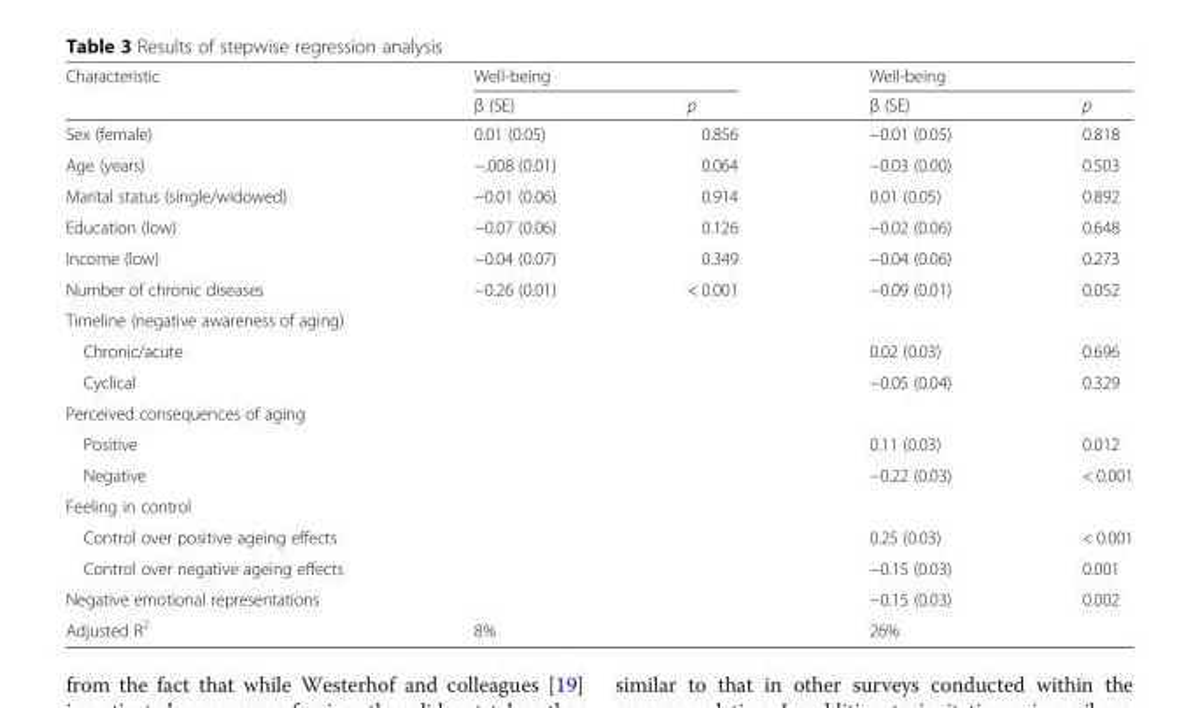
<table><thead><tr><td rowspan="2">Characteristic</td><td colspan="2">Well-being</td><td colspan="2">Well-being</td></tr><tr><td>β (SE)</td><td>p</td><td>β (SE)</td><td>p</td></tr></thead><tbody><tr><td>Sex (female)</td><td>0.01 (0.05)</td><td>0.856</td><td>−0.01 (0.05)</td><td>0.818</td></tr><tr><td>Age (years)</td><td>−.008 (0.01)</td><td>0.064</td><td>−0.03 (0.00)</td><td>0.503</td></tr><tr><td>Marital status (single/widowed)</td><td>−0.01 (0.06)</td><td>0.914</td><td>0.01 (0.05)</td><td>0.892</td></tr><tr><td>Education (low)</td><td>−0.07 (0.06)</td><td>0.126</td><td>−0.02 (0.06)</td><td>0.648</td></tr><tr><td>Income (low)</td><td>−0.04 (0.07)</td><td>0.349</td><td>−0.04 (0.06)</td><td>0.273</td></tr><tr><td>Number of chronic diseases</td><td>−0.26 (0.01)</td><td>&lt; 0.001</td><td>−0.09 (0.01)</td><td>0.052</td></tr><tr><td colspan="5">Timeline (negative awareness of aging)</td></tr><tr><td>Chronic/acute</td><td></td><td></td><td>0.02 (0.03)</td><td>0.696</td></tr><tr><td>Cyclical</td><td></td><td></td><td>−0.05 (0.04)</td><td>0.329</td></tr><tr><td colspan="5">Perceived consequences of aging</td></tr><tr><td>Positive</td><td></td><td></td><td>0.11 (0.03)</td><td>0.012</td></tr><tr><td>Negative</td><td></td><td></td><td>−0.22 (0.03)</td><td>&lt; 0.001</td></tr><tr><td colspan="5">Feeling in control</td></tr><tr><td>Control over positive ageing effects</td><td></td><td></td><td>0.25 (0.03)</td><td>&lt; 0.001</td></tr><tr><td>Control over negative ageing effects</td><td></td><td></td><td>−0.15 (0.03)</td><td>0.001</td></tr><tr><td>Negative emotional representations</td><td></td><td></td><td>−0.15 (0.03)</td><td>0.002</td></tr><tr><td>Adjusted R<sup>2</sup></td><td>8%</td><td></td><td>26%</td><td></td></tr></tbody></table>